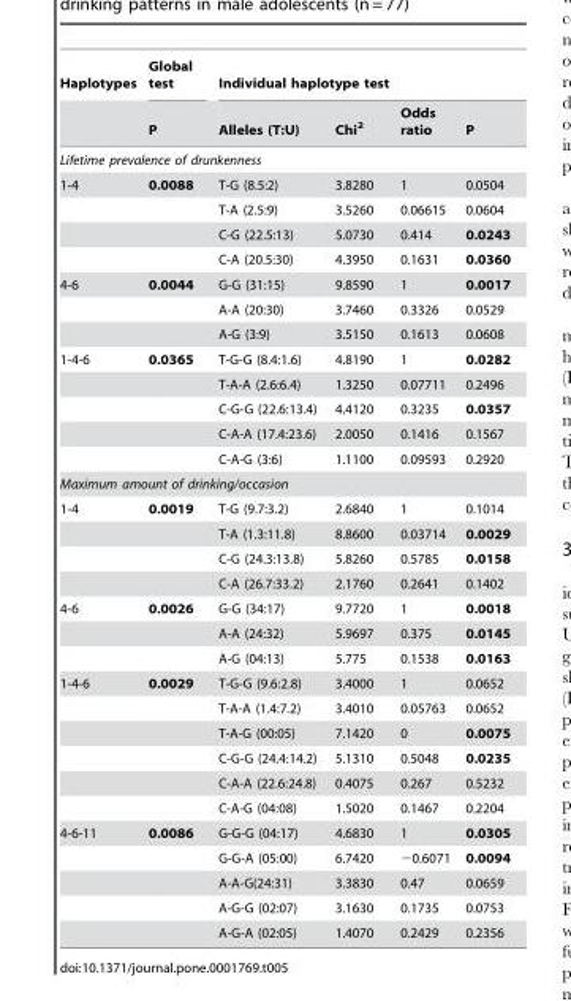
<table><thead><tr><td rowspan="2">Haplotypes</td><td rowspan="2">Global test P</td><td colspan="4">Individual haplotype test</td></tr><tr><td>Alleles (T:U)</td><td>Chi<sup>2</sup></td><td>Odds ratio</td><td>P</td></tr></thead><tbody><tr><td colspan="6">Lifetime prevalence of drunkenness</td></tr><tr><td rowspan="4">1-4</td><td>0.0088</td><td>T-G (8.5:2)</td><td>3.8280</td><td>1</td><td>0.0504</td></tr><tr><td></td><td>T-A (2.5:9)</td><td>3.5260</td><td>0.06615</td><td>0.0604</td></tr><tr><td></td><td>C-G (22.5:13)</td><td>5.0730</td><td>0.414</td><td>0.0243</td></tr><tr><td></td><td>C-A (20.5:30)</td><td>4.3950</td><td>0.1631</td><td>0.0360</td></tr><tr><td rowspan="3">4-6</td><td>0.0044</td><td>G-G (31:15)</td><td>9.8590</td><td>1</td><td>0.0017</td></tr><tr><td></td><td>A-A (20:30)</td><td>3.7460</td><td>0.3326</td><td>0.0529</td></tr><tr><td></td><td>A-G (3:9)</td><td>3.5150</td><td>0.1613</td><td>0.0608</td></tr><tr><td rowspan="5">1-4-6</td><td>0.0365</td><td>T-G-G (8.4:1.6)</td><td>4.8190</td><td>1</td><td>0.0282</td></tr><tr><td></td><td>T-A-A (2.6:6.4)</td><td>1.3250</td><td>0.07711</td><td>0.2496</td></tr><tr><td></td><td>C-G-G (22.6:13.4)</td><td>4.4120</td><td>0.3235</td><td>0.0357</td></tr><tr><td></td><td>C-A-A (17.4:23.6)</td><td>2.0050</td><td>0.1416</td><td>0.1567</td></tr><tr><td></td><td>C-A-G (3:6)</td><td>1.1100</td><td>0.09593</td><td>0.2920</td></tr><tr><td colspan="6">Maximum amount of drinking/occasion</td></tr><tr><td rowspan="4">1-4</td><td>0.0019</td><td>T-G (9.7:3.2)</td><td>2.6840</td><td>1</td><td>0.1014</td></tr><tr><td></td><td>T-A (1.3:11.8)</td><td>8.8600</td><td>0.03714</td><td>0.0029</td></tr><tr><td></td><td>C-G (24.3:13.8)</td><td>5.8260</td><td>0.5785</td><td>0.0158</td></tr><tr><td></td><td>C-A (26.7:33.2)</td><td>2.1760</td><td>0.2641</td><td>0.1402</td></tr><tr><td rowspan="3">4-6</td><td>0.0026</td><td>G-G (34:17)</td><td>9.7720</td><td>1</td><td>0.0018</td></tr><tr><td></td><td>A-A (24:32)</td><td>5.9697</td><td>0.375</td><td>0.0145</td></tr><tr><td></td><td>A-G (04:13)</td><td>5.775</td><td>0.1538</td><td>0.0163</td></tr><tr><td rowspan="6">1-4-6</td><td>0.0029</td><td>T-G-G (9.6:2.8)</td><td>3.4000</td><td>1</td><td>0.0652</td></tr><tr><td></td><td>T-A-A (1.4:7.2)</td><td>3.4010</td><td>0.05763</td><td>0.0652</td></tr><tr><td></td><td>T-A-G (00:05)</td><td>7.1420</td><td>0</td><td>0.0075</td></tr><tr><td></td><td>C-G-G (24.4:14.2)</td><td>5.1310</td><td>0.5048</td><td>0.0235</td></tr><tr><td></td><td>C-A-A (22.6:24.8)</td><td>0.4075</td><td>0.267</td><td>0.5232</td></tr><tr><td></td><td>C-A-G (04:08)</td><td>1.5020</td><td>0.1467</td><td>0.2204</td></tr><tr><td rowspan="5">4-6-11</td><td>0.0086</td><td>G-G-G (04:17)</td><td>4.6830</td><td>1</td><td>0.0305</td></tr><tr><td></td><td>G-G-A (05:00)</td><td>6.7420</td><td>−0.6071</td><td>0.0094</td></tr><tr><td></td><td>A-A-G(24:31)</td><td>3.3830</td><td>0.47</td><td>0.0659</td></tr><tr><td></td><td>A-G-G (02:07)</td><td>3.1630</td><td>0.1735</td><td>0.0753</td></tr><tr><td></td><td>A-G-A (02:05)</td><td>1.4070</td><td>0.2429</td><td>0.2356</td></tr></tbody></table>